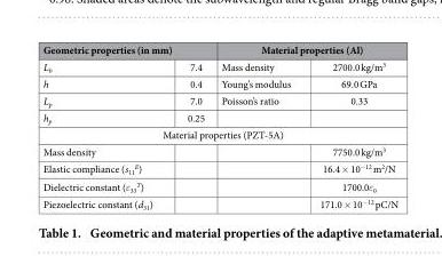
<table><thead><tr><td colspan="2">Geometric properties (in mm)</td><td colspan="2">Material properties (Al)</td></tr><tr><td>L<sub>b</sub></td><td>7.4</td><td>Mass density</td><td>2700.0 kg/m<sup>3</sup></td></tr></thead><tbody><tr><td>h</td><td>0.4</td><td>Young’s modulus</td><td>69.0 GPa</td></tr><tr><td>L<sub>p</sub></td><td>7.0</td><td>Poisson’s ratio</td><td>0.33</td></tr><tr><td>h<sub>p</sub></td><td>0.25</td><td></td><td></td></tr><tr><td colspan="4">Material properties (PZT-5A)</td></tr><tr><td>Mass density</td><td></td><td></td><td>7750.0 kg/m<sup>3</sup></td></tr><tr><td>Elastic compliance (s<sub>11</sub> <sup>E</sup>)</td><td></td><td></td><td>16.4 × 10<sup>−12</sup> m<sup>2</sup>/N</td></tr><tr><td>Dielectric constant (ε33 T)</td><td></td><td></td><td>1700.0ε0</td></tr><tr><td>Piezoelectric constant (d<sub>31</sub>)</td><td></td><td></td><td>171.0 × 10<sup>−12</sup> pC/N</td></tr></tbody></table>